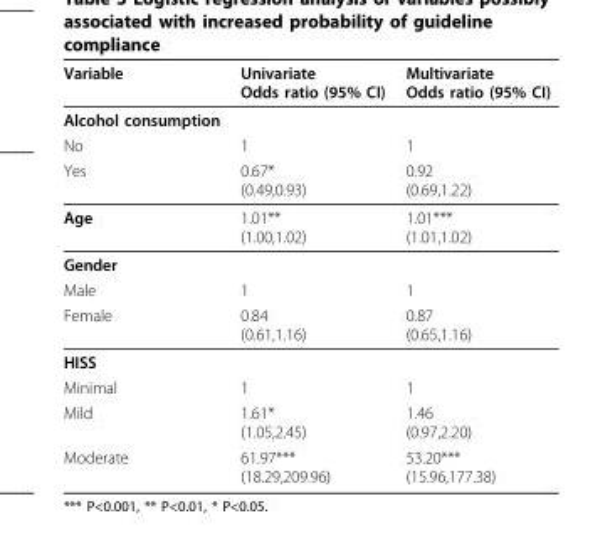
<table><thead><tr><td>Variable</td><td>Univariate Odds ratio (95% CI)</td><td>Multivariate Odds ratio (95% CI)</td></tr></thead><tbody><tr><td colspan="3">Alcohol consumption</td></tr><tr><td>No</td><td>1</td><td>1</td></tr><tr><td>Yes</td><td>0.67* (0.49,0.93)</td><td>0.92 (0.69,1.22)</td></tr><tr><td>Age</td><td>1.01** (1.00,1.02)</td><td>1.01*** (1.01,1.02)</td></tr><tr><td colspan="3">Gender</td></tr><tr><td>Male</td><td>1</td><td>1</td></tr><tr><td>Female</td><td>0.84 (0.61,1.16)</td><td>0.87 (0.65,1.16)</td></tr><tr><td colspan="3">HISS</td></tr><tr><td>Minimal</td><td>1</td><td>1</td></tr><tr><td>Mild</td><td>1.61* (1.05,2.45)</td><td>1.46 (0.97,2.20)</td></tr><tr><td>Moderate</td><td>61.97*** (18.29,209.96)</td><td>53.20*** (15.96,177.38)</td></tr></tbody></table>